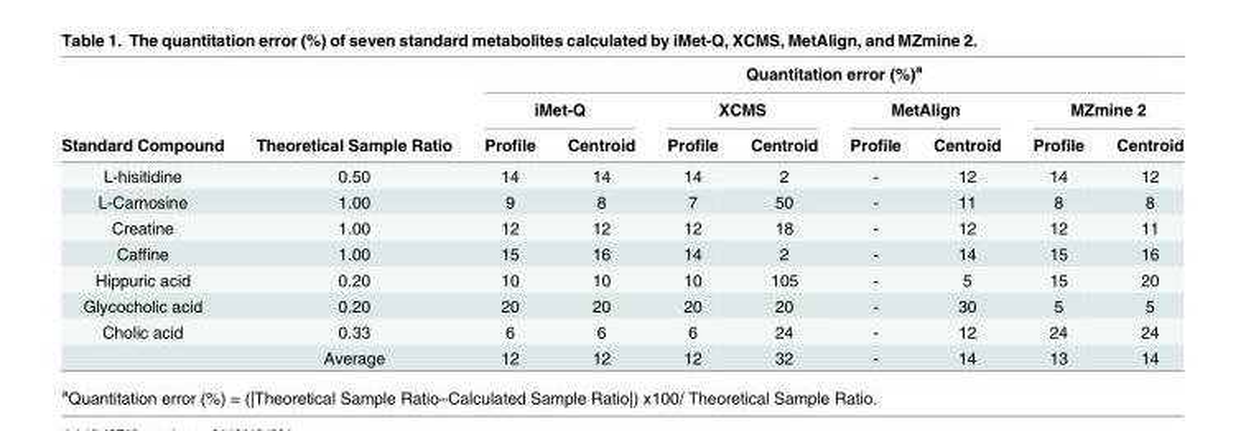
<table><thead><tr><td rowspan="3">Standard Compound</td><td rowspan="3">Theoretical Sample Ratio</td><td colspan="8">Quantitation error (%)<sup>a</sup></td></tr><tr><td colspan="2">iMet-Q</td><td colspan="2">XCMS</td><td colspan="2">MetAlign</td><td colspan="2">MZmine 2</td></tr><tr><td>Profile</td><td>Centroid</td><td>Profile</td><td>Centroid</td><td>Profile</td><td>Centroid</td><td>Profile</td><td>Centroid</td></tr></thead><tbody><tr><td>L-hisitidine</td><td>0.50</td><td>14</td><td>14</td><td>14</td><td>2</td><td>-</td><td>12</td><td>14</td><td>12</td></tr><tr><td>L-Carnosine</td><td>1.00</td><td>9</td><td>8</td><td>7</td><td>50</td><td>-</td><td>11</td><td>8</td><td>8</td></tr><tr><td>Creatine</td><td>1.00</td><td>12</td><td>12</td><td>12</td><td>18</td><td>-</td><td>12</td><td>12</td><td>11</td></tr><tr><td>Caffine</td><td>1.00</td><td>15</td><td>16</td><td>14</td><td>2</td><td>-</td><td>14</td><td>15</td><td>16</td></tr><tr><td>Hippuric acid</td><td>0.20</td><td>10</td><td>10</td><td>10</td><td>105</td><td>-</td><td>5</td><td>15</td><td>20</td></tr><tr><td>Glycocholic acid</td><td>0.20</td><td>20</td><td>20</td><td>20</td><td>20</td><td>-</td><td>30</td><td>5</td><td>5</td></tr><tr><td rowspan="2">Cholic acid</td><td>0.33</td><td>6</td><td>6</td><td>6</td><td>24</td><td>-</td><td>12</td><td>24</td><td>24</td></tr><tr><td>Average</td><td>12</td><td>12</td><td>12</td><td>32</td><td>-</td><td>14</td><td>13</td><td>14</td></tr></tbody></table>